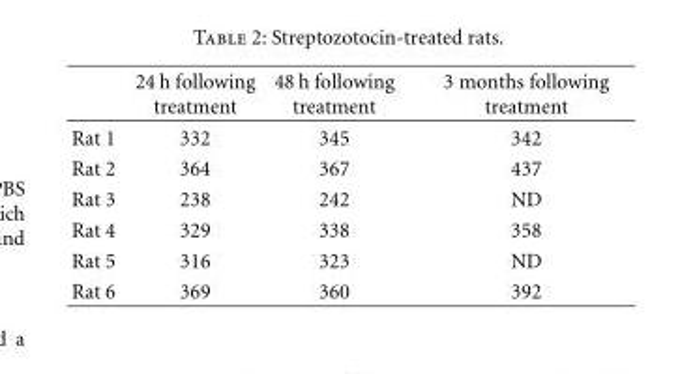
<table><thead><tr><td></td><td>24 h following treatment</td><td>48 h following treatment</td><td>3 months following treatment</td></tr></thead><tbody><tr><td>Rat 1</td><td>332</td><td>345</td><td>342</td></tr><tr><td>Rat 2</td><td>364</td><td>367</td><td>437</td></tr><tr><td>Rat 3</td><td>238</td><td>242</td><td>ND</td></tr><tr><td>Rat 4</td><td>329</td><td>338</td><td>358</td></tr><tr><td>Rat 5</td><td>316</td><td>323</td><td>ND</td></tr><tr><td>Rat 6</td><td>369</td><td>360</td><td>392</td></tr></tbody></table>